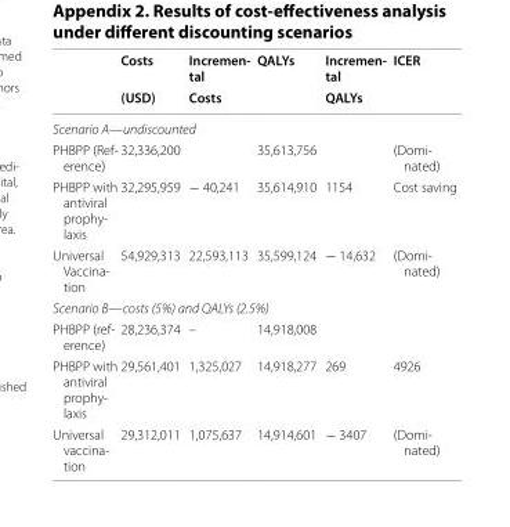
<table><thead><tr><td rowspan="2"></td><td rowspan="2">Costs (USD)</td><td rowspan="2">Incremen- tal Costs</td><td rowspan="2">QALYs</td><td rowspan="2">Incremen- tal QALYs</td><td rowspan="2">ICER</td></tr><tr></tr></thead><tbody><tr><td colspan="6">Scenario A—undiscounted</td></tr><tr><td>PHBPP (Ref‑ erence)</td><td>32,336,200</td><td></td><td>35,613,756</td><td></td><td>(Domi‑ nated)</td></tr><tr><td>PHBPP with antiviral prophy‑ laxis</td><td>32,295,959</td><td>− 40,241</td><td>35,614,910</td><td>1154</td><td>Cost saving</td></tr><tr><td>Universal Vaccina‑ tion</td><td>54,929,313</td><td>22,593,113</td><td>35,599,124</td><td>− 14,632</td><td>(Domi‑ nated)</td></tr><tr><td colspan="6">Scenario B—costs (5%) and QALYs (2.5%)</td></tr><tr><td>PHBPP (ref‑ erence)</td><td>28,236,374</td><td>–</td><td>14,918,008</td><td></td><td></td></tr><tr><td>PHBPP with antiviral prophy‑ laxis</td><td>29,561,401</td><td>1,325,027</td><td>14,918,277</td><td>269</td><td>4926</td></tr><tr><td>Universal vaccina‑ tion</td><td>29,312,011</td><td>1,075,637</td><td>14,914,601</td><td>− 3407</td><td>(Domi‑ nated)</td></tr></tbody></table>